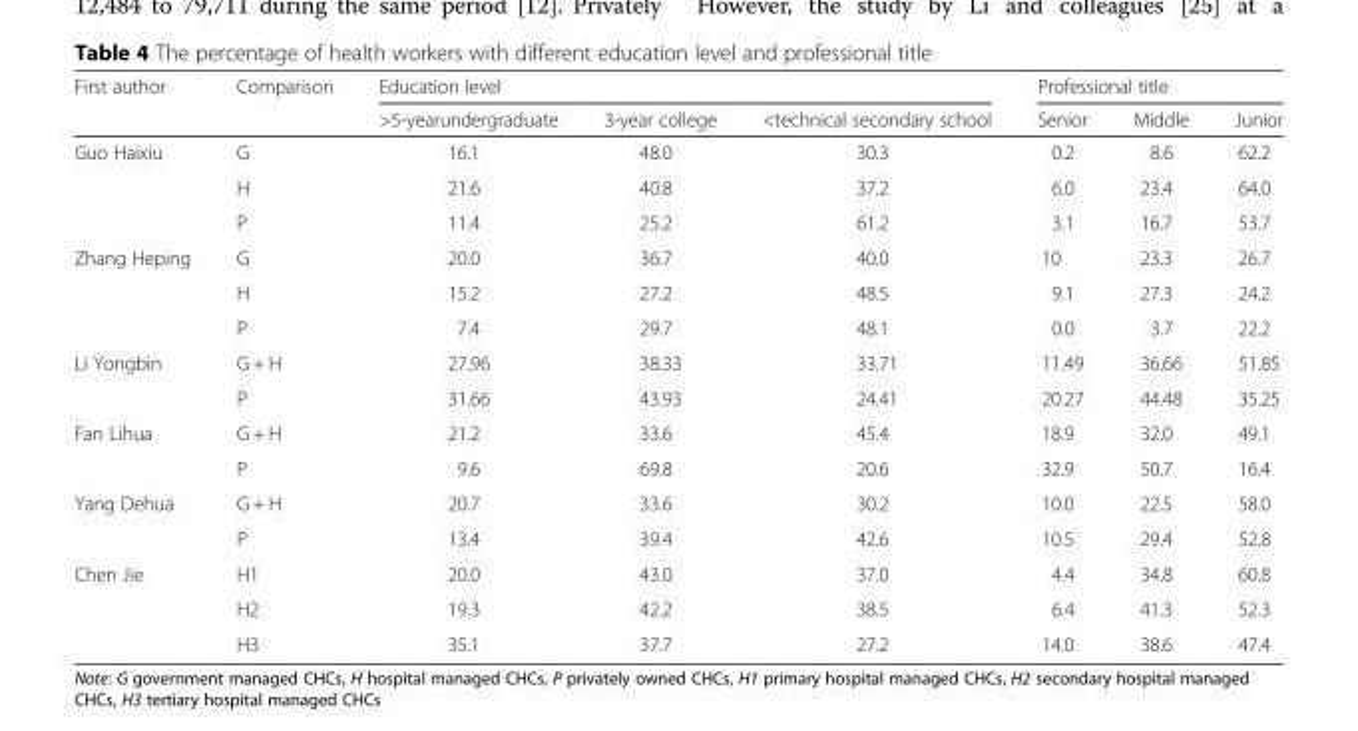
<table><thead><tr><td rowspan="2">First author</td><td rowspan="2">Comparison</td><td colspan="3">Education level</td><td colspan="3">Professional title</td></tr><tr><td>&gt;5-yearundergraduate</td><td>3-year college</td><td>&lt;technical secondary school</td><td>Senior</td><td>Middle</td><td>Junior</td></tr></thead><tbody><tr><td rowspan="3">Guo Haixiu</td><td>G</td><td>16.1</td><td>48.0</td><td>30.3</td><td>0.2</td><td>8.6</td><td>62.2</td></tr><tr><td>H</td><td>21.6</td><td>40.8</td><td>37.2</td><td>6.0</td><td>23.4</td><td>64.0</td></tr><tr><td>P</td><td>11.4</td><td>25.2</td><td>61.2</td><td>3.1</td><td>16.7</td><td>53.7</td></tr><tr><td rowspan="3">Zhang Heping</td><td>G</td><td>20.0</td><td>36.7</td><td>40.0</td><td>10</td><td>23.3</td><td>26.7</td></tr><tr><td>H</td><td>15.2</td><td>27.2</td><td>48.5</td><td>9.1</td><td>27.3</td><td>24.2</td></tr><tr><td>P</td><td>7.4</td><td>29.7</td><td>48.1</td><td>0.0</td><td>3.7</td><td>22.2</td></tr><tr><td rowspan="2">Li Yongbin</td><td>G + H</td><td>27.96</td><td>38.33</td><td>33.71</td><td>11.49</td><td>36.66</td><td>51.85</td></tr><tr><td>P</td><td>31.66</td><td>43.93</td><td>24.41</td><td>20.27</td><td>44.48</td><td>35.25</td></tr><tr><td rowspan="2">Fan Lihua</td><td>G + H</td><td>21.2</td><td>33.6</td><td>45.4</td><td>18.9</td><td>32.0</td><td>49.1</td></tr><tr><td>P</td><td>9.6</td><td>69.8</td><td>20.6</td><td>32.9</td><td>50.7</td><td>16.4</td></tr><tr><td rowspan="2">Yang Dehua</td><td>G + H</td><td>20.7</td><td>33.6</td><td>30.2</td><td>10.0</td><td>22.5</td><td>58.0</td></tr><tr><td>P</td><td>13.4</td><td>39.4</td><td>42.6</td><td>10.5</td><td>29.4</td><td>52.8</td></tr><tr><td rowspan="3">Chen Jie</td><td>H1</td><td>20.0</td><td>43.0</td><td>37.0</td><td>4.4</td><td>34.8</td><td>60.8</td></tr><tr><td>H2</td><td>19.3</td><td>42.2</td><td>38.5</td><td>6.4</td><td>41.3</td><td>52.3</td></tr><tr><td>H3</td><td>35.1</td><td>37.7</td><td>27.2</td><td>14.0</td><td>38.6</td><td>47.4</td></tr></tbody></table>